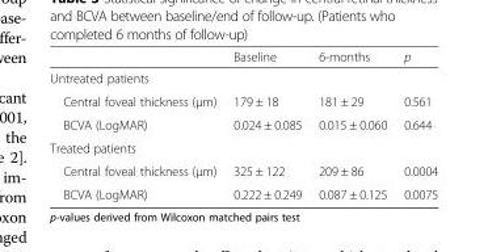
<table><thead><tr><td></td><td>Baseline</td><td>6-months</td><td>p</td></tr></thead><tbody><tr><td colspan="4">Untreated patients</td></tr><tr><td>Central foveal thickness (μm)</td><td>179 ± 18</td><td>181 ± 29</td><td>0.561</td></tr><tr><td>BCVA (LogMAR)</td><td>0.024 ± 0.085</td><td>0.015 ± 0.060</td><td>0.644</td></tr><tr><td colspan="4">Treated patients</td></tr><tr><td>Central foveal thickness (μm)</td><td>325 ± 122</td><td>209 ± 86</td><td>0.0004</td></tr><tr><td>BCVA (LogMAR)</td><td>0.222 ± 0.249</td><td>0.087 ± 0.125</td><td>0.0075</td></tr></tbody></table>